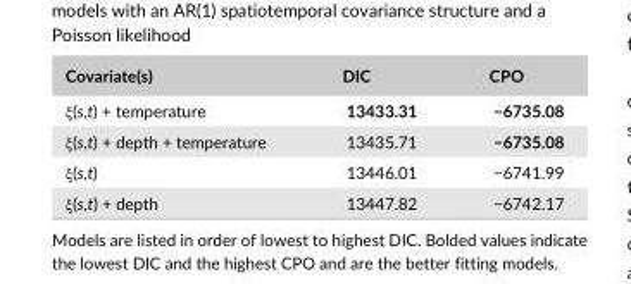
<table><thead><tr><td>Covariate(s)</td><td>DIC</td><td>CPO</td></tr></thead><tbody><tr><td>ξ(s,t) + temperature</td><td>13433.31</td><td>−6735.08</td></tr><tr><td>ξ(s,t) + depth + temperature</td><td>13435.71</td><td>−6735.08</td></tr><tr><td>ξ(s,t)</td><td>13446.01</td><td>−6741.99</td></tr><tr><td>ξ(s,t) + depth</td><td>13447.82</td><td>−6742.17</td></tr></tbody></table>